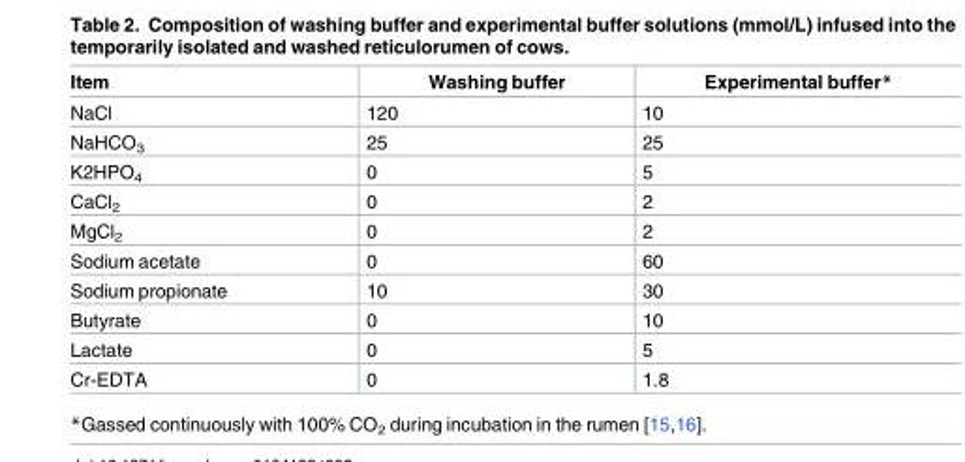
<table><thead><tr><td>Item</td><td>Washing buffer</td><td>Experimental buffer*</td></tr></thead><tbody><tr><td>NaCl</td><td>120</td><td>10</td></tr><tr><td>NaHCO<sub>3</sub></td><td>25</td><td>25</td></tr><tr><td>K2HPO<sub>4</sub></td><td>0</td><td>5</td></tr><tr><td>CaCl<sub>2</sub></td><td>0</td><td>2</td></tr><tr><td>MgCl<sub>2</sub></td><td>0</td><td>2</td></tr><tr><td>Sodium acetate</td><td>0</td><td>60</td></tr><tr><td>Sodium propionate</td><td>10</td><td>30</td></tr><tr><td>Butyrate</td><td>0</td><td>10</td></tr><tr><td>Lactate</td><td>0</td><td>5</td></tr><tr><td>Cr-EDTA</td><td>0</td><td>1.8</td></tr></tbody></table>